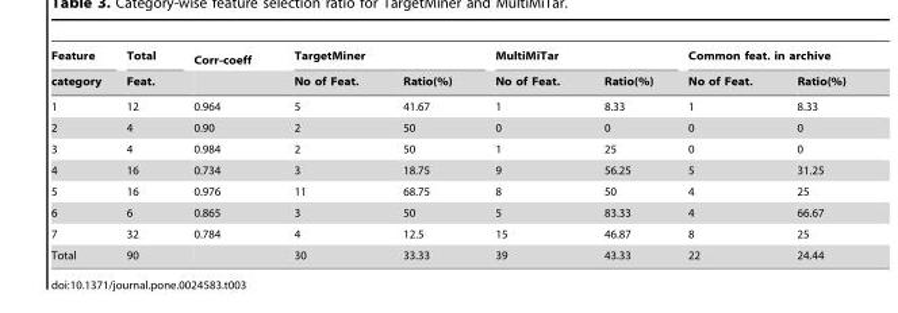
<table><thead><tr><td rowspan="2">Feature category</td><td rowspan="2">Total Feat.</td><td rowspan="2">Corr-coeff</td><td colspan="2">TargetMiner</td><td colspan="2">MultiMiTar</td><td colspan="2">Common feat. in archive</td></tr><tr><td>No of Feat.</td><td>Ratio(%)</td><td>No of Feat.</td><td>Ratio(%)</td><td>No of Feat.</td><td>Ratio(%)</td></tr></thead><tbody><tr><td>1</td><td>12</td><td>0.964</td><td>5</td><td>41.67</td><td>1</td><td>8.33</td><td>1</td><td>8.33</td></tr><tr><td>2</td><td>4</td><td>0.90</td><td>2</td><td>50</td><td>0</td><td>0</td><td>0</td><td>0</td></tr><tr><td>3</td><td>4</td><td>0.984</td><td>2</td><td>50</td><td>1</td><td>25</td><td>0</td><td>0</td></tr><tr><td>4</td><td>16</td><td>0.734</td><td>3</td><td>18.75</td><td>9</td><td>56.25</td><td>5</td><td>31.25</td></tr><tr><td>5</td><td>16</td><td>0.976</td><td>11</td><td>68.75</td><td>8</td><td>50</td><td>4</td><td>25</td></tr><tr><td>6</td><td>6</td><td>0.865</td><td>3</td><td>50</td><td>5</td><td>83.33</td><td>4</td><td>66.67</td></tr><tr><td>7</td><td>32</td><td>0.784</td><td>4</td><td>12.5</td><td>15</td><td>46.87</td><td>8</td><td>25</td></tr><tr><td>Total</td><td>90</td><td></td><td>30</td><td>33.33</td><td>39</td><td>43.33</td><td>22</td><td>24.44</td></tr></tbody></table>